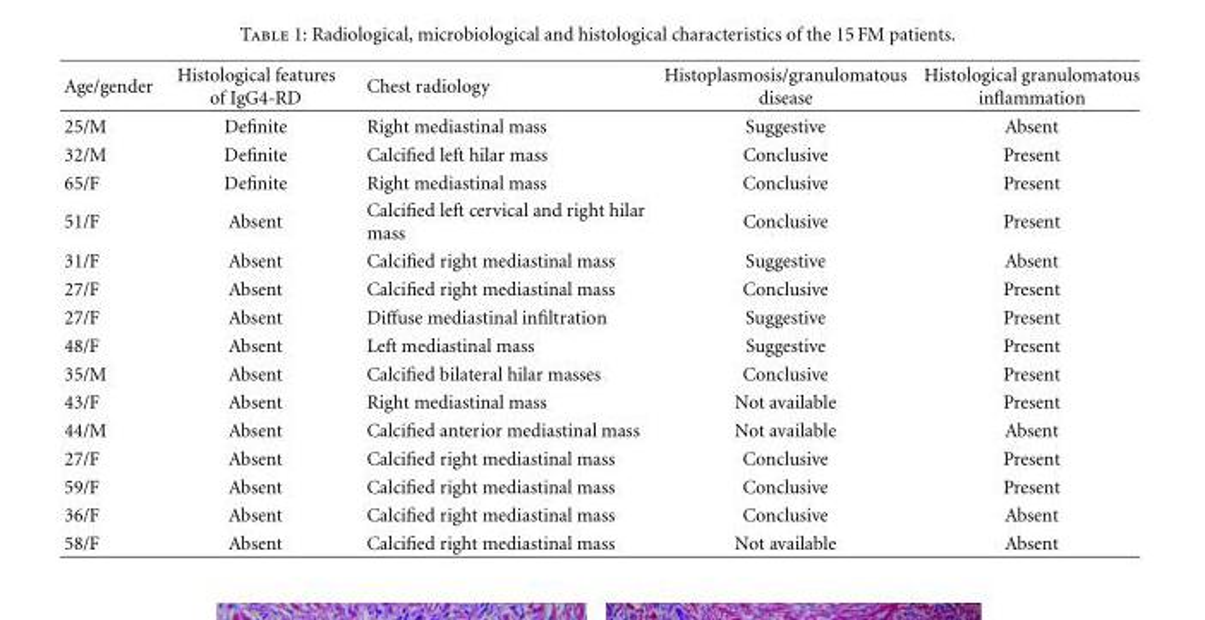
<table><thead><tr><td>Age/gender</td><td>Histological features of IgG4-RD</td><td>Chest radiology</td><td>Histoplasmosis/granulomatous disease</td><td>Histological granulomatous inflammation</td></tr></thead><tbody><tr><td>25/M</td><td>Definite</td><td>Right mediastinal mass</td><td>Suggestive</td><td>Absent</td></tr><tr><td>32/M</td><td>Definite</td><td>Calcified left hilar mass</td><td>Conclusive</td><td>Present</td></tr><tr><td>65/F</td><td>Definite</td><td>Right mediastinal mass</td><td>Conclusive</td><td>Present</td></tr><tr><td>51/F</td><td>Absent</td><td>Calcified left cervical and right hilar mass</td><td>Conclusive</td><td>Present</td></tr><tr><td>31/F</td><td>Absent</td><td>Calcified right mediastinal mass</td><td>Suggestive</td><td>Absent</td></tr><tr><td>27/F</td><td>Absent</td><td>Calcified right mediastinal mass</td><td>Conclusive</td><td>Present</td></tr><tr><td>27/F</td><td>Absent</td><td>Diffuse mediastinal infiltration</td><td>Suggestive</td><td>Present</td></tr><tr><td>48/F</td><td>Absent</td><td>Left mediastinal mass</td><td>Suggestive</td><td>Present</td></tr><tr><td>35/M</td><td>Absent</td><td>Calcified bilateral hilar masses</td><td>Conclusive</td><td>Present</td></tr><tr><td>43/F</td><td>Absent</td><td>Right mediastinal mass</td><td>Not available</td><td>Present</td></tr><tr><td>44/M</td><td>Absent</td><td>Calcified anterior mediastinal mass</td><td>Not available</td><td>Absent</td></tr><tr><td>27/F</td><td>Absent</td><td>Calcified right mediastinal mass</td><td>Conclusive</td><td>Present</td></tr><tr><td>59/F</td><td>Absent</td><td>Calcified right mediastinal mass</td><td>Conclusive</td><td>Present</td></tr><tr><td>36/F</td><td>Absent</td><td>Calcified right mediastinal mass</td><td>Conclusive</td><td>Absent</td></tr><tr><td>58/F</td><td>Absent</td><td>Calcified right mediastinal mass</td><td>Not available</td><td>Absent</td></tr></tbody></table>